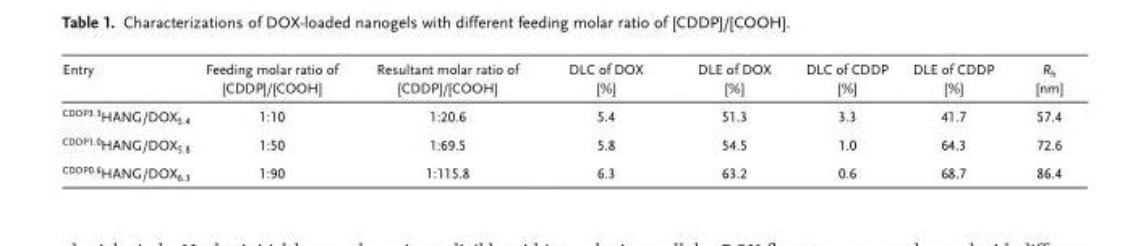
<table><thead><tr><td>Entry</td><td>Feeding molar ratio of [CDDP]/[COOH]</td><td>Resultant molar ratio of [CDDP]/[COOH]</td><td>DLC of DOX [%]</td><td>DLE of DOX [%]</td><td>DLC of CDDP [%]</td><td>DLE of CDDP [%]</td><td>R<sub>h</sub> [nm]</td></tr></thead><tbody><tr><td><sup>CDDP3.3</sup>HANG/DOX<sub>5.4</sub></td><td>1:10</td><td>1:20.6</td><td>5.4</td><td>51.3</td><td>3.3</td><td>41.7</td><td>57.4</td></tr><tr><td><sup>CDDP1.0</sup>HANG/DOX<sub>5.8</sub></td><td>1:50</td><td>1:69.5</td><td>5.8</td><td>54.5</td><td>1.0</td><td>64.3</td><td>72.6</td></tr><tr><td><sup>CDDP0.6</sup>HANG/DOX<sub>6.3</sub></td><td>1:90</td><td>1:115.8</td><td>6.3</td><td>63.2</td><td>0.6</td><td>68.7</td><td>86.4</td></tr></tbody></table>